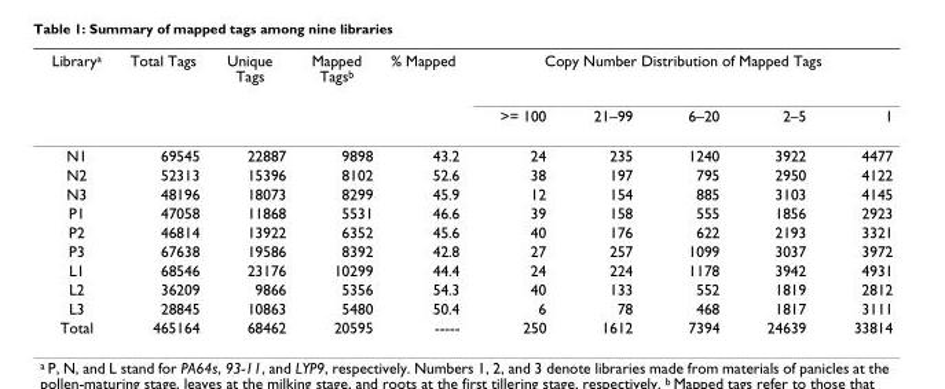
<table><thead><tr><td rowspan="2">Library<sup>a</sup></td><td rowspan="2">Total Tags</td><td rowspan="2">Unique Tags</td><td rowspan="2">Mapped Tags<sup>b</sup></td><td rowspan="2">% Mapped</td><td colspan="5">Copy Number Distribution of Mapped Tags</td></tr><tr><td>&gt;= 100</td><td>21–99</td><td>6–20</td><td>2–5</td><td>1</td></tr></thead><tbody><tr><td>N1</td><td>69545</td><td>22887</td><td>9898</td><td>43.2</td><td>24</td><td>235</td><td>1240</td><td>3922</td><td>4477</td></tr><tr><td>N2</td><td>52313</td><td>15396</td><td>8102</td><td>52.6</td><td>38</td><td>197</td><td>795</td><td>2950</td><td>4122</td></tr><tr><td>N3</td><td>48196</td><td>18073</td><td>8299</td><td>45.9</td><td>12</td><td>154</td><td>885</td><td>3103</td><td>4145</td></tr><tr><td>P1</td><td>47058</td><td>11868</td><td>5531</td><td>46.6</td><td>39</td><td>158</td><td>555</td><td>1856</td><td>2923</td></tr><tr><td>P2</td><td>46814</td><td>13922</td><td>6352</td><td>45.6</td><td>40</td><td>176</td><td>622</td><td>2193</td><td>3321</td></tr><tr><td>P3</td><td>67638</td><td>19586</td><td>8392</td><td>42.8</td><td>27</td><td>257</td><td>1099</td><td>3037</td><td>3972</td></tr><tr><td>L1</td><td>68546</td><td>23176</td><td>10299</td><td>44.4</td><td>24</td><td>224</td><td>1178</td><td>3942</td><td>4931</td></tr><tr><td>L2</td><td>36209</td><td>9866</td><td>5356</td><td>54.3</td><td>40</td><td>133</td><td>552</td><td>1819</td><td>2812</td></tr><tr><td>L3</td><td>28845</td><td>10863</td><td>5480</td><td>50.4</td><td>6</td><td>78</td><td>468</td><td>1817</td><td>3111</td></tr><tr><td>Total</td><td>465164</td><td>68462</td><td>20595</td><td>-----</td><td>250</td><td>1612</td><td>7394</td><td>24639</td><td>33814</td></tr></tbody></table>